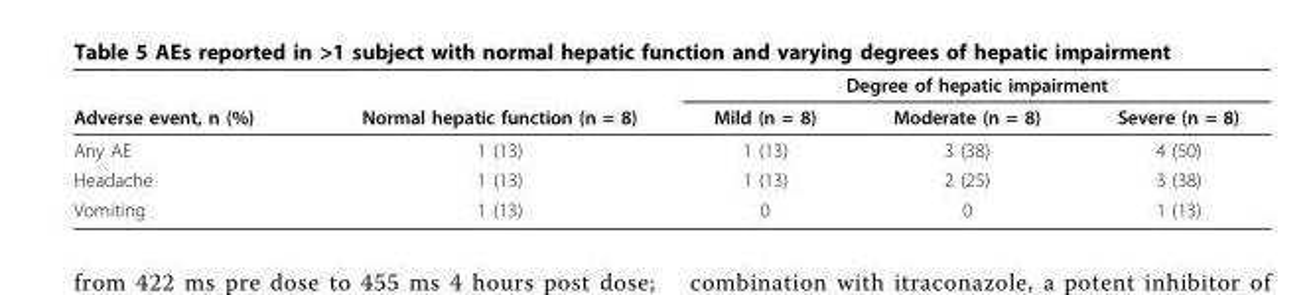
<table><thead><tr><td rowspan="2">Adverse event, n (%)</td><td rowspan="2">Normal hepatic function (n = 8)</td><td colspan="3">Degree of hepatic impairment</td></tr><tr><td>Mild (n = 8)</td><td>Moderate (n = 8)</td><td>Severe (n = 8)</td></tr></thead><tbody><tr><td>Any AE</td><td>1 (13)</td><td>1 (13)</td><td>3 (38)</td><td>4 (50)</td></tr><tr><td>Headache</td><td>1 (13)</td><td>1 (13)</td><td>2 (25)</td><td>3 (38)</td></tr><tr><td>Vomiting</td><td>1 (13)</td><td>0</td><td>0</td><td>1 (13)</td></tr></tbody></table>